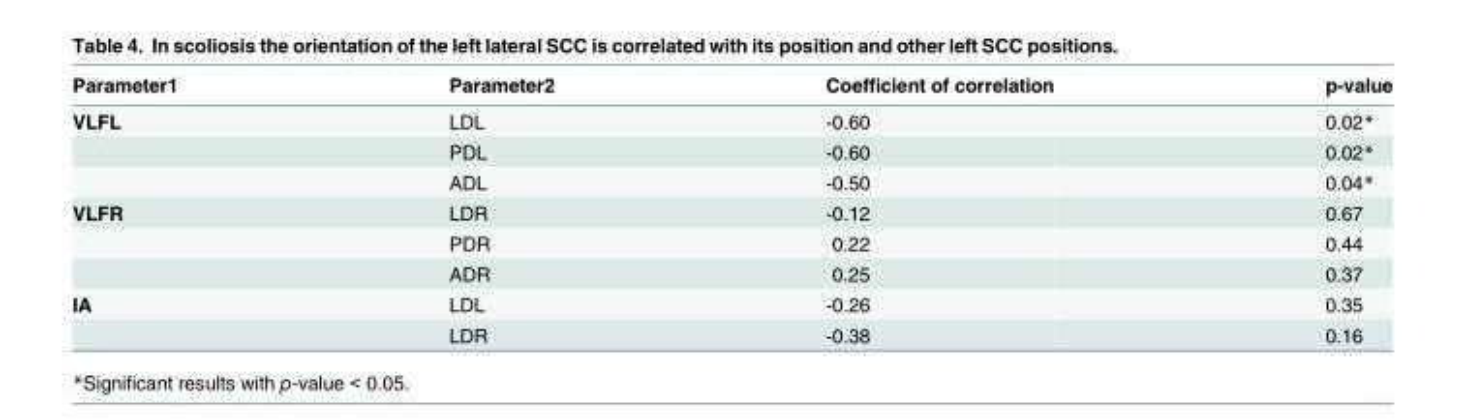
<table><thead><tr><td>Parameter1</td><td>Parameter2</td><td>Coefficient of correlation</td><td>p-value</td></tr></thead><tbody><tr><td rowspan="3">VLFL</td><td>LDL</td><td>-0.60</td><td>0.02*</td></tr><tr><td>PDL</td><td>-0.60</td><td>0.02*</td></tr><tr><td>ADL</td><td>-0.50</td><td>0.04*</td></tr><tr><td rowspan="3">VLFR</td><td>LDR</td><td>-0.12</td><td>0.67</td></tr><tr><td>PDR</td><td>0.22</td><td>0.44</td></tr><tr><td>ADR</td><td>0.25</td><td>0.37</td></tr><tr><td rowspan="2">IA</td><td>LDL</td><td>-0.26</td><td>0.35</td></tr><tr><td>LDR</td><td>-0.38</td><td>0.16</td></tr></tbody></table>